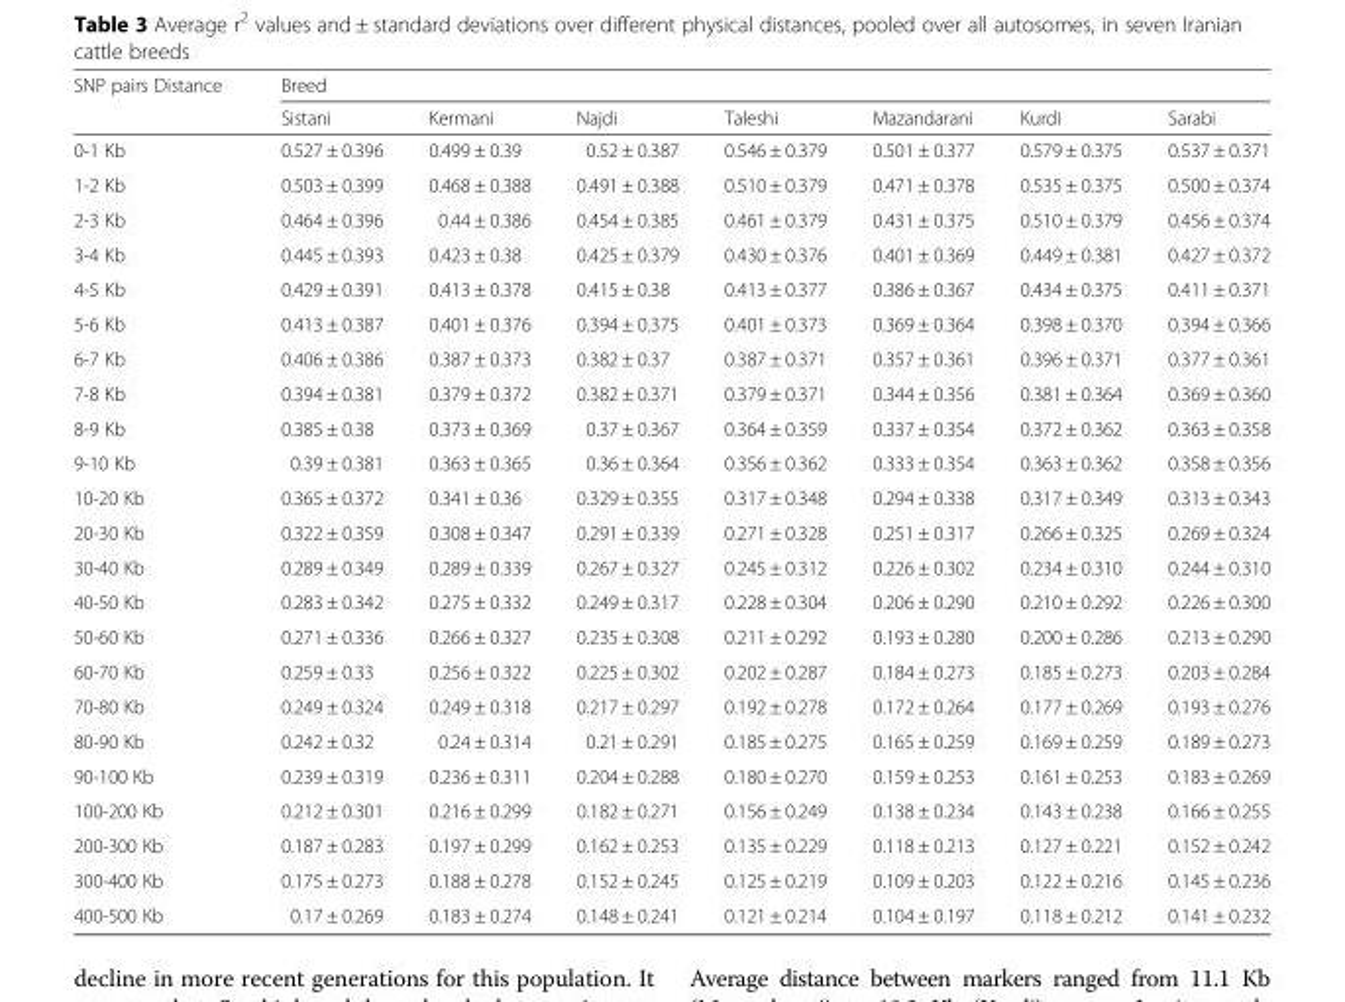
<table><thead><tr><td rowspan="2">SNP pairs Distance</td><td colspan="7">Breed</td></tr><tr><td>Sistani</td><td>Kermani</td><td>Najdi</td><td>Taleshi</td><td>Mazandarani</td><td>Kurdi</td><td>Sarabi</td></tr></thead><tbody><tr><td>0-1 Kb</td><td>0.527 ± 0.396</td><td>0.499 ± 0.39</td><td>0.52 ± 0.387</td><td>0.546 ± 0.379</td><td>0.501 ± 0.377</td><td>0.579 ± 0.375</td><td>0.537 ± 0.371</td></tr><tr><td>1-2 Kb</td><td>0.503 ± 0.399</td><td>0.468 ± 0.388</td><td>0.491 ± 0.388</td><td>0.510 ± 0.379</td><td>0.471 ± 0.378</td><td>0.535 ± 0.375</td><td>0.500 ± 0.374</td></tr><tr><td>2-3 Kb</td><td>0.464 ± 0.396</td><td>0.44 ± 0.386</td><td>0.454 ± 0.385</td><td>0.461 ± 0.379</td><td>0.431 ± 0.375</td><td>0.510 ± 0.379</td><td>0.456 ± 0.374</td></tr><tr><td>3-4 Kb</td><td>0.445 ± 0.393</td><td>0.423 ± 0.38</td><td>0.425 ± 0.379</td><td>0.430 ± 0.376</td><td>0.401 ± 0.369</td><td>0.449 ± 0.381</td><td>0.427 ± 0.372</td></tr><tr><td>4-5 Kb</td><td>0.429 ± 0.391</td><td>0.413 ± 0.378</td><td>0.415 ± 0.38</td><td>0.413 ± 0.377</td><td>0.386 ± 0.367</td><td>0.434 ± 0.375</td><td>0.411 ± 0.371</td></tr><tr><td>5-6 Kb</td><td>0.413 ± 0.387</td><td>0.401 ± 0.376</td><td>0.394 ± 0.375</td><td>0.401 ± 0.373</td><td>0.369 ± 0.364</td><td>0.398 ± 0.370</td><td>0.394 ± 0.366</td></tr><tr><td>6-7 Kb</td><td>0.406 ± 0.386</td><td>0.387 ± 0.373</td><td>0.382 ± 0.37</td><td>0.387 ± 0.371</td><td>0.357 ± 0.361</td><td>0.396 ± 0.371</td><td>0.377 ± 0.361</td></tr><tr><td>7-8 Kb</td><td>0.394 ± 0.381</td><td>0.379 ± 0.372</td><td>0.382 ± 0.371</td><td>0.379 ± 0.371</td><td>0.344 ± 0.356</td><td>0.381 ± 0.364</td><td>0.369 ± 0.360</td></tr><tr><td>8-9 Kb</td><td>0.385 ± 0.38</td><td>0.373 ± 0.369</td><td>0.37 ± 0.367</td><td>0.364 ± 0.359</td><td>0.337 ± 0.354</td><td>0.372 ± 0.362</td><td>0.363 ± 0.358</td></tr><tr><td>9-10 Kb</td><td>0.39 ± 0.381</td><td>0.363 ± 0.365</td><td>0.36 ± 0.364</td><td>0.356 ± 0.362</td><td>0.333 ± 0.354</td><td>0.363 ± 0.362</td><td>0.358 ± 0.356</td></tr><tr><td>10-20 Kb</td><td>0.365 ± 0.372</td><td>0.341 ± 0.36</td><td>0.329 ± 0.355</td><td>0.317 ± 0.348</td><td>0.294 ± 0.338</td><td>0.317 ± 0.349</td><td>0.313 ± 0.343</td></tr><tr><td>20-30 Kb</td><td>0.322 ± 0.359</td><td>0.308 ± 0.347</td><td>0.291 ± 0.339</td><td>0.271 ± 0.328</td><td>0.251 ± 0.317</td><td>0.266 ± 0.325</td><td>0.269 ± 0.324</td></tr><tr><td>30-40 Kb</td><td>0.289 ± 0.349</td><td>0.289 ± 0.339</td><td>0.267 ± 0.327</td><td>0.245 ± 0.312</td><td>0.226 ± 0.302</td><td>0.234 ± 0.310</td><td>0.244 ± 0.310</td></tr><tr><td>40-50 Kb</td><td>0.283 ± 0.342</td><td>0.275 ± 0.332</td><td>0.249 ± 0.317</td><td>0.228 ± 0.304</td><td>0.206 ± 0.290</td><td>0.210 ± 0.292</td><td>0.226 ± 0.300</td></tr><tr><td>50-60 Kb</td><td>0.271 ± 0.336</td><td>0.266 ± 0.327</td><td>0.235 ± 0.308</td><td>0.211 ± 0.292</td><td>0.193 ± 0.280</td><td>0.200 ± 0.286</td><td>0.213 ± 0.290</td></tr><tr><td>60-70 Kb</td><td>0.259 ± 0.33</td><td>0.256 ± 0.322</td><td>0.225 ± 0.302</td><td>0.202 ± 0.287</td><td>0.184 ± 0.273</td><td>0.185 ± 0.273</td><td>0.203 ± 0.284</td></tr><tr><td>70-80 Kb</td><td>0.249 ± 0.324</td><td>0.249 ± 0.318</td><td>0.217 ± 0.297</td><td>0.192 ± 0.278</td><td>0.172 ± 0.264</td><td>0.177 ± 0.269</td><td>0.193 ± 0.276</td></tr><tr><td>80-90 Kb</td><td>0.242 ± 0.32</td><td>0.24 ± 0.314</td><td>0.21 ± 0.291</td><td>0.185 ± 0.275</td><td>0.165 ± 0.259</td><td>0.169 ± 0.259</td><td>0.189 ± 0.273</td></tr><tr><td>90-100 Kb</td><td>0.239 ± 0.319</td><td>0.236 ± 0.311</td><td>0.204 ± 0.288</td><td>0.180 ± 0.270</td><td>0.159 ± 0.253</td><td>0.161 ± 0.253</td><td>0.183 ± 0.269</td></tr><tr><td>100-200 Kb</td><td>0.212 ± 0.301</td><td>0.216 ± 0.299</td><td>0.182 ± 0.271</td><td>0.156 ± 0.249</td><td>0.138 ± 0.234</td><td>0.143 ± 0.238</td><td>0.166 ± 0.255</td></tr><tr><td>200-300 Kb</td><td>0.187 ± 0.283</td><td>0.197 ± 0.299</td><td>0.162 ± 0.253</td><td>0.135 ± 0.229</td><td>0.118 ± 0.213</td><td>0.127 ± 0.221</td><td>0.152 ± 0.242</td></tr><tr><td>300-400 Kb</td><td>0.175 ± 0.273</td><td>0.188 ± 0.278</td><td>0.152 ± 0.245</td><td>0.125 ± 0.219</td><td>0.109 ± 0.203</td><td>0.122 ± 0.216</td><td>0.145 ± 0.236</td></tr><tr><td>400-500 Kb</td><td>0.17 ± 0.269</td><td>0.183 ± 0.274</td><td>0.148 ± 0.241</td><td>0.121 ± 0.214</td><td>0.104 ± 0.197</td><td>0.118 ± 0.212</td><td>0.141 ± 0.232</td></tr></tbody></table>